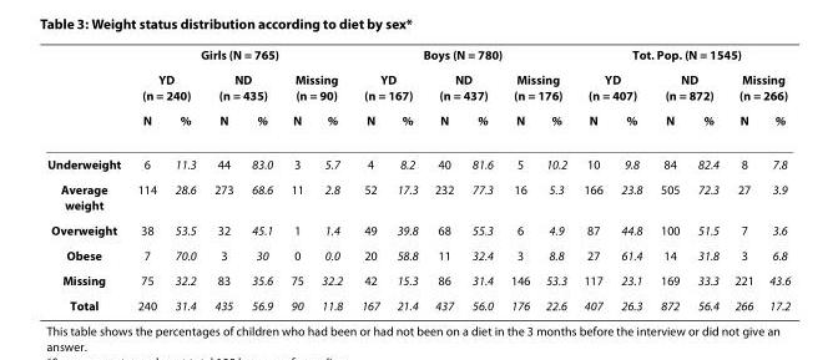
<table><thead><tr><td rowspan="3"></td><td colspan="6">Girls (N = 765)</td><td colspan="6">Boys (N = 780)</td><td colspan="6">Tot. Pop. (N = 1545)</td></tr><tr><td colspan="2">YD (n = 240)</td><td colspan="2">ND (n = 435)</td><td colspan="2">Missing (n = 90)</td><td colspan="2">YD (n = 167)</td><td colspan="2">ND (n = 437)</td><td colspan="2">Missing (n = 176)</td><td colspan="2">YD (n = 407)</td><td colspan="2">ND (n = 872)</td><td colspan="2">Missing (n = 266)</td></tr><tr><td>N</td><td>%</td><td>N</td><td>%</td><td>N</td><td>%</td><td>N</td><td>%</td><td>N</td><td>%</td><td>N</td><td>%</td><td>N</td><td>%</td><td>N</td><td>%</td><td>N</td><td>%</td></tr></thead><tbody><tr><td>Underweight</td><td>6</td><td>11.3</td><td>44</td><td>83.0</td><td>3</td><td>5.7</td><td>4</td><td>8.2</td><td>40</td><td>81.6</td><td>5</td><td>10.2</td><td>10</td><td>9.8</td><td>84</td><td>82.4</td><td>8</td><td>7.8</td></tr><tr><td>Average weight</td><td>114</td><td>28.6</td><td>273</td><td>68.6</td><td>11</td><td>2.8</td><td>52</td><td>17.3</td><td>232</td><td>77.3</td><td>16</td><td>5.3</td><td>166</td><td>23.8</td><td>505</td><td>72.3</td><td>27</td><td>3.9</td></tr><tr><td>Overweight</td><td>38</td><td>53.5</td><td>32</td><td>45.1</td><td>1</td><td>1.4</td><td>49</td><td>39.8</td><td>68</td><td>55.3</td><td>6</td><td>4.9</td><td>87</td><td>44.8</td><td>100</td><td>51.5</td><td>7</td><td>3.6</td></tr><tr><td>Obese</td><td>7</td><td>70.0</td><td>3</td><td>30</td><td>0</td><td>0.0</td><td>20</td><td>58.8</td><td>11</td><td>32.4</td><td>3</td><td>8.8</td><td>27</td><td>61.4</td><td>14</td><td>31.8</td><td>3</td><td>6.8</td></tr><tr><td>Missing</td><td>75</td><td>32.2</td><td>83</td><td>35.6</td><td>75</td><td>32.2</td><td>42</td><td>15.3</td><td>86</td><td>31.4</td><td>146</td><td>53.3</td><td>117</td><td>23.1</td><td>169</td><td>33.3</td><td>221</td><td>43.6</td></tr><tr><td>Total</td><td>240</td><td>31.4</td><td>435</td><td>56.9</td><td>90</td><td>11.8</td><td>167</td><td>21.4</td><td>437</td><td>56.0</td><td>176</td><td>22.6</td><td>407</td><td>26.3</td><td>872</td><td>56.4</td><td>266</td><td>17.2</td></tr></tbody></table>